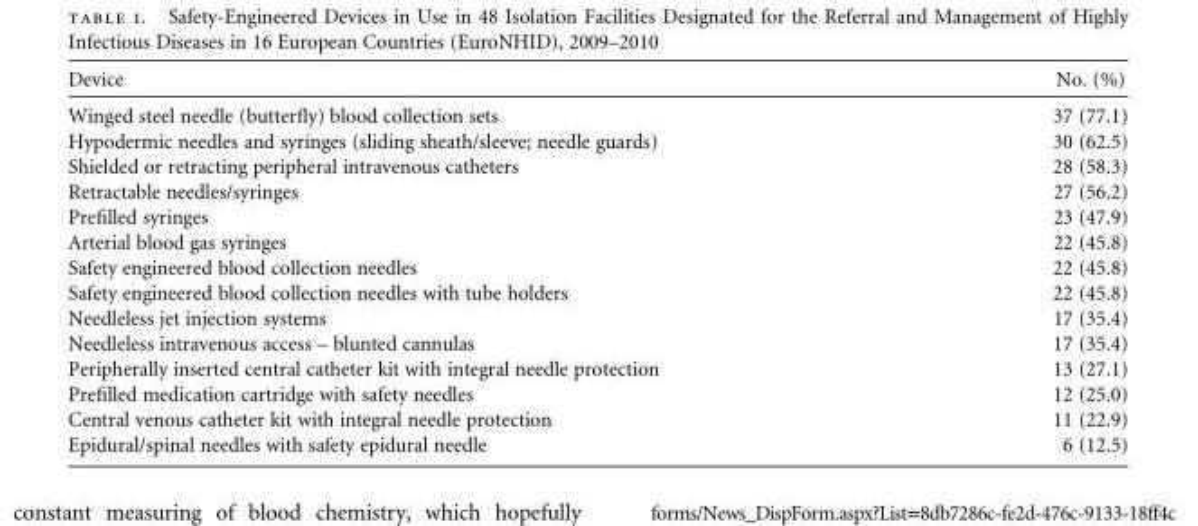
<table><thead><tr><td>Device</td><td>No. (%)</td></tr></thead><tbody><tr><td>Winged steel needle (butterfly) blood collection sets</td><td>37 (77.1)</td></tr><tr><td>Hypodermic needles and syringes (sliding sheath/sleeve; needle guards)</td><td>30 (62.5)</td></tr><tr><td>Shielded or retracting peripheral intravenous catheters</td><td>28 (58.3)</td></tr><tr><td>Retractable needles/syringes</td><td>27 (56.2)</td></tr><tr><td>Prefilled syringes</td><td>23 (47.9)</td></tr><tr><td>Arterial blood gas syringes</td><td>22 (45.8)</td></tr><tr><td>Safety engineered blood collection needles</td><td>22 (45.8)</td></tr><tr><td>Safety engineered blood collection needles with tube holders</td><td>22 (45.8)</td></tr><tr><td>Needleless jet injection systems</td><td>17 (35.4)</td></tr><tr><td>Needleless intravenous access – blunted cannulas</td><td>17 (35.4)</td></tr><tr><td>Peripherally inserted central catheter kit with integral needle protection</td><td>13 (27.1)</td></tr><tr><td>Prefilled medication cartridge with safety needles</td><td>12 (25.0)</td></tr><tr><td>Central venous catheter kit with integral needle protection</td><td>11 (22.9)</td></tr><tr><td>Epidural/spinal needles with safety epidural needle</td><td>6 (12.5)</td></tr></tbody></table>